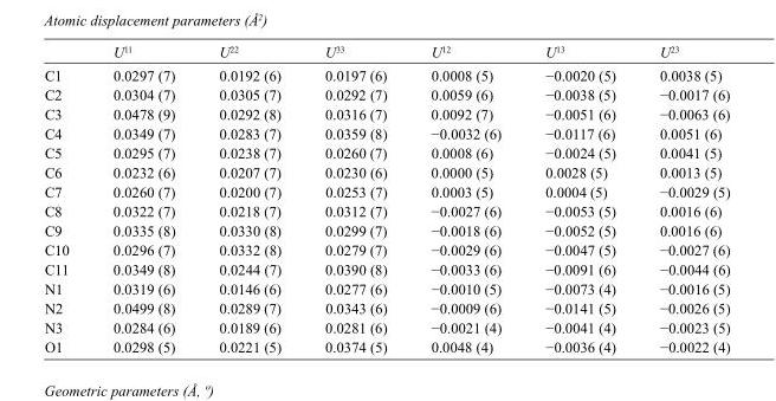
<table><thead><tr><td></td><td>U<sup>11</sup></td><td>U<sup>22</sup></td><td>U<sup>33</sup></td><td>U<sup>12</sup></td><td>U<sup>13</sup></td><td>U<sup>23</sup></td></tr></thead><tbody><tr><td>C1</td><td>0.0297 (7)</td><td>0.0192 (6)</td><td>0.0197 (6)</td><td>0.0008 (5)</td><td>−0.0020 (5)</td><td>0.0038 (5)</td></tr><tr><td>C2</td><td>0.0304 (7)</td><td>0.0305 (7)</td><td>0.0292 (7)</td><td>0.0059 (6)</td><td>−0.0038 (5)</td><td>−0.0017 (6)</td></tr><tr><td>C3</td><td>0.0478 (9)</td><td>0.0292 (8)</td><td>0.0316 (7)</td><td>0.0092 (7)</td><td>−0.0051 (6)</td><td>−0.0063 (6)</td></tr><tr><td>C4</td><td>0.0349 (7)</td><td>0.0283 (7)</td><td>0.0359 (8)</td><td>−0.0032 (6)</td><td>−0.0117 (6)</td><td>0.0051 (6)</td></tr><tr><td>C5</td><td>0.0295 (7)</td><td>0.0238 (7)</td><td>0.0260 (7)</td><td>0.0008 (6)</td><td>−0.0024 (5)</td><td>0.0041 (5)</td></tr><tr><td>C6</td><td>0.0232 (6)</td><td>0.0207 (7)</td><td>0.0230 (6)</td><td>0.0000 (5)</td><td>0.0028 (5)</td><td>0.0013 (5)</td></tr><tr><td>C7</td><td>0.0260 (7)</td><td>0.0200 (7)</td><td>0.0253 (7)</td><td>0.0003 (5)</td><td>0.0004 (5)</td><td>−0.0029 (5)</td></tr><tr><td>C8</td><td>0.0322 (7)</td><td>0.0218 (7)</td><td>0.0312 (7)</td><td>−0.0027 (6)</td><td>−0.0053 (5)</td><td>0.0016 (6)</td></tr><tr><td>C9</td><td>0.0335 (8)</td><td>0.0330 (8)</td><td>0.0299 (7)</td><td>−0.0018 (6)</td><td>−0.0052 (5)</td><td>0.0016 (6)</td></tr><tr><td>C10</td><td>0.0296 (7)</td><td>0.0332 (8)</td><td>0.0279 (7)</td><td>−0.0029 (6)</td><td>−0.0047 (5)</td><td>−0.0027 (6)</td></tr><tr><td>C11</td><td>0.0349 (8)</td><td>0.0244 (7)</td><td>0.0390 (8)</td><td>−0.0033 (6)</td><td>−0.0091 (6)</td><td>−0.0044 (6)</td></tr><tr><td>N1</td><td>0.0319 (6)</td><td>0.0146 (6)</td><td>0.0277 (6)</td><td>−0.0010 (5)</td><td>−0.0073 (4)</td><td>−0.0016 (5)</td></tr><tr><td>N2</td><td>0.0499 (8)</td><td>0.0289 (7)</td><td>0.0343 (6)</td><td>−0.0009 (6)</td><td>−0.0141 (5)</td><td>−0.0026 (5)</td></tr><tr><td>N3</td><td>0.0284 (6)</td><td>0.0189 (6)</td><td>0.0281 (6)</td><td>−0.0021 (4)</td><td>−0.0041 (4)</td><td>−0.0023 (5)</td></tr><tr><td>O1</td><td>0.0298 (5)</td><td>0.0221 (5)</td><td>0.0374 (5)</td><td>0.0048 (4)</td><td>−0.0036 (4)</td><td>−0.0022 (4)</td></tr></tbody></table>